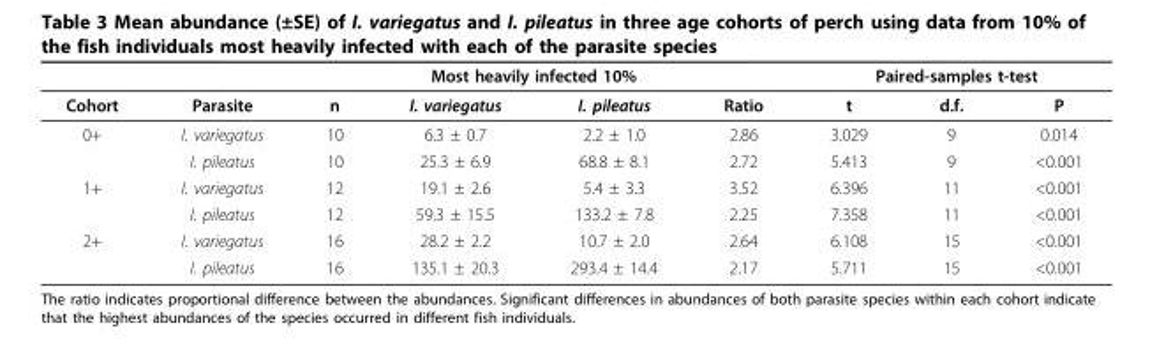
<table><thead><tr><td rowspan="2">Cohort</td><td rowspan="2">Parasite</td><td rowspan="2">n</td><td colspan="2">Most heavily infected 10%</td><td rowspan="2">Ratio</td><td colspan="3">Paired-samples t-test</td></tr><tr><td>I. variegatus</td><td>I. pileatus</td><td>t</td><td>d.f.</td><td>P</td></tr></thead><tbody><tr><td rowspan="2">0+</td><td>I. variegatus</td><td>10</td><td>6.3 ± 0.7</td><td>2.2 ± 1.0</td><td>2.86</td><td>3.029</td><td>9</td><td>0.014</td></tr><tr><td>I. pileatus</td><td>10</td><td>25.3 ± 6.9</td><td>68.8 ± 8.1</td><td>2.72</td><td>5.413</td><td>9</td><td>&lt;0.001</td></tr><tr><td rowspan="2">1+</td><td>I. variegatus</td><td>12</td><td>19.1 ± 2.6</td><td>5.4 ± 3.3</td><td>3.52</td><td>6.396</td><td>11</td><td>&lt;0.001</td></tr><tr><td>I. pileatus</td><td>12</td><td>59.3 ± 15.5</td><td>133.2 ± 7.8</td><td>2.25</td><td>7.358</td><td>11</td><td>&lt;0.001</td></tr><tr><td rowspan="2">2+</td><td>I. variegatus</td><td>16</td><td>28.2 ± 2.2</td><td>10.7 ± 2.0</td><td>2.64</td><td>6.108</td><td>15</td><td>&lt;0.001</td></tr><tr><td>I. pileatus</td><td>16</td><td>135.1 ± 20.3</td><td>293.4 ± 14.4</td><td>2.17</td><td>5.711</td><td>15</td><td>&lt;0.001</td></tr></tbody></table>